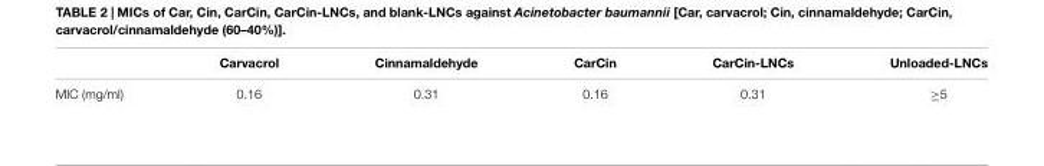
<table><thead><tr><td></td><td>Carvacrol</td><td>Cinnamaldehyde</td><td>CarCin</td><td>CarCin-LNCs</td><td>Unloaded-LNCs</td></tr></thead><tbody><tr><td>MIC (mg/ml)</td><td>0.16</td><td>0.31</td><td>0.16</td><td>0.31</td><td>≥5</td></tr></tbody></table>